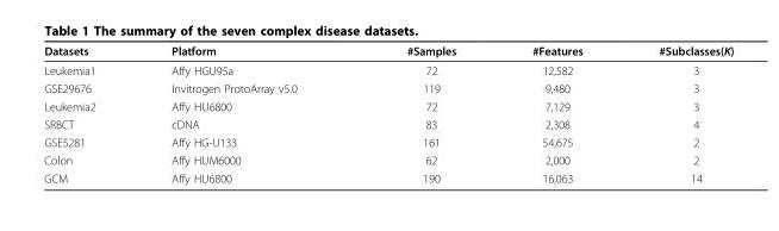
<table><thead><tr><td>Datasets</td><td>Platform</td><td>#Samples</td><td>#Features</td><td>#Subclasses(K)</td></tr></thead><tbody><tr><td>Leukemia1</td><td>Affy HGU95a</td><td>72</td><td>12,582</td><td>3</td></tr><tr><td>GSE29676</td><td>Invitrogen ProtoArray v5.0</td><td>119</td><td>9,480</td><td>3</td></tr><tr><td>Leukemia2</td><td>Affy HU6800</td><td>72</td><td>7,129</td><td>3</td></tr><tr><td>SRBCT</td><td>cDNA</td><td>83</td><td>2,308</td><td>4</td></tr><tr><td>GSE5281</td><td>Affy HG-U133</td><td>161</td><td>54,675</td><td>2</td></tr><tr><td>Colon</td><td>Affy HUM6000</td><td>62</td><td>2,000</td><td>2</td></tr><tr><td>GCM</td><td>Affy HU6800</td><td>190</td><td>16,063</td><td>14</td></tr></tbody></table>